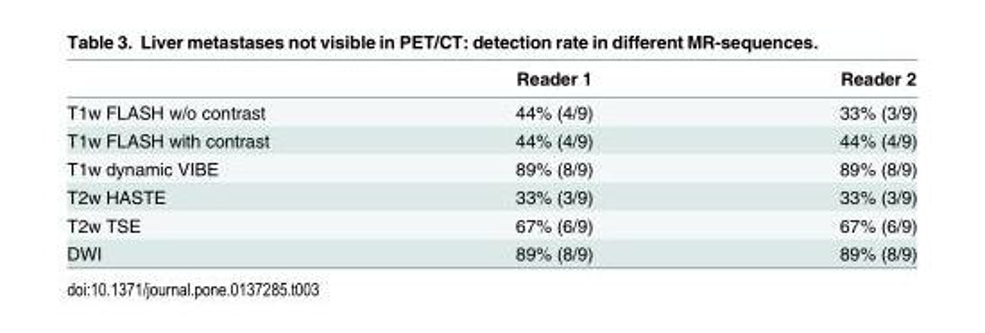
<table><thead><tr><td></td><td>Reader 1</td><td>Reader 2</td></tr></thead><tbody><tr><td>T1w FLASH w/o contrast</td><td>44% (4/9)</td><td>33% (3/9)</td></tr><tr><td>T1w FLASH with contrast</td><td>44% (4/9)</td><td>44% (4/9)</td></tr><tr><td>T1w dynamic VIBE</td><td>89% (8/9)</td><td>89% (8/9)</td></tr><tr><td>T2w HASTE</td><td>33% (3/9)</td><td>33% (3/9)</td></tr><tr><td>T2w TSE</td><td>67% (6/9)</td><td>67% (6/9)</td></tr><tr><td>DWI</td><td>89% (8/9)</td><td>89% (8/9)</td></tr></tbody></table>